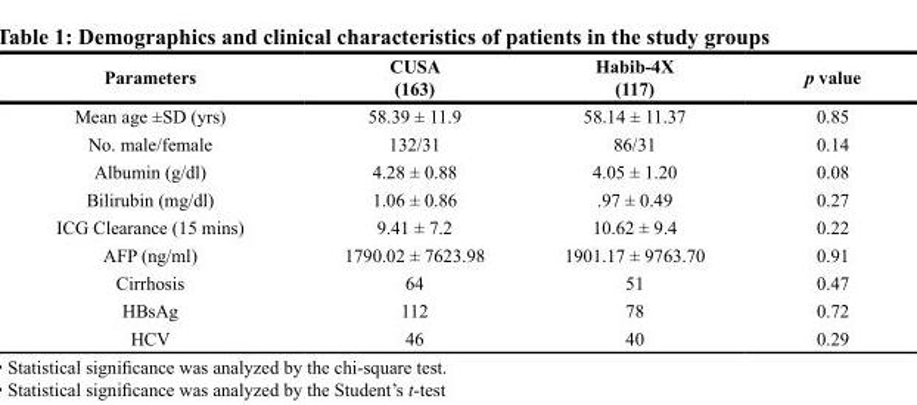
<table><thead><tr><td>Parameters</td><td>CUSA (163)</td><td>Habib-4X (117)</td><td>p value</td></tr></thead><tbody><tr><td>Mean age ±SD (yrs)</td><td>58.39 ± 11.9</td><td>58.14 ± 11.37</td><td>0.85</td></tr><tr><td>No. male/female</td><td>132/31</td><td>86/31</td><td>0.14</td></tr><tr><td>Albumin (g/dl)</td><td>4.28 ± 0.88</td><td>4.05 ± 1.20</td><td>0.08</td></tr><tr><td>Bilirubin (mg/dl)</td><td>1.06 ± 0.86</td><td>.97 ± 0.49</td><td>0.27</td></tr><tr><td>ICG Clearance (15 mins)</td><td>9.41 ± 7.2</td><td>10.62 ± 9.4</td><td>0.22</td></tr><tr><td>AFP (ng/ml)</td><td>1790.02 ± 7623.98</td><td>1901.17 ± 9763.70</td><td>0.91</td></tr><tr><td>Cirrhosis</td><td>64</td><td>51</td><td>0.47</td></tr><tr><td>HBsAg</td><td>112</td><td>78</td><td>0.72</td></tr><tr><td>HCV</td><td>46</td><td>40</td><td>0.29</td></tr></tbody></table>